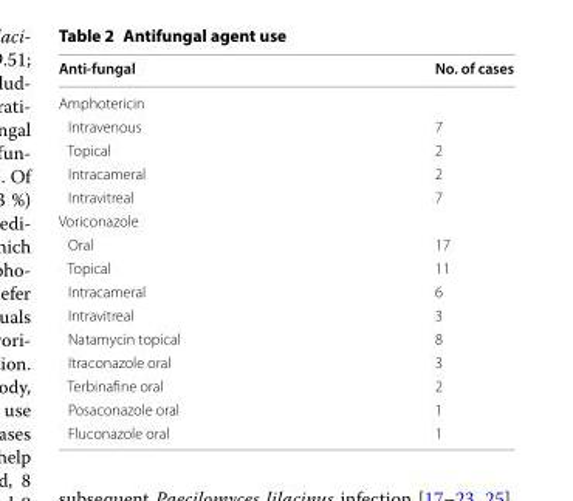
<table><thead><tr><td>Anti-fungal</td><td>No. of cases</td></tr></thead><tbody><tr><td colspan="2">Amphotericin</td></tr><tr><td>Intravenous</td><td>7</td></tr><tr><td>Topical</td><td>2</td></tr><tr><td>Intracameral</td><td>2</td></tr><tr><td>Intravitreal</td><td>7</td></tr><tr><td colspan="2">Voriconazole</td></tr><tr><td>Oral</td><td>17</td></tr><tr><td>Topical</td><td>11</td></tr><tr><td>Intracameral</td><td>6</td></tr><tr><td>Intravitreal</td><td>3</td></tr><tr><td>Natamycin topical</td><td>8</td></tr><tr><td>Itraconazole oral</td><td>3</td></tr><tr><td>Terbinafine oral</td><td>2</td></tr><tr><td>Posaconazole oral</td><td>1</td></tr><tr><td>Fluconazole oral</td><td>1</td></tr></tbody></table>